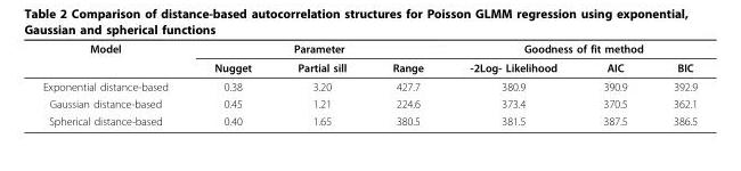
<table><thead><tr><td rowspan="2">Model</td><td colspan="3">Parameter</td><td colspan="3">Goodness of fit method</td></tr><tr><td>Nugget</td><td>Partial sill</td><td>Range</td><td>-2Log- Likelihood</td><td>AIC</td><td>BIC</td></tr></thead><tbody><tr><td>Exponential distance-based</td><td>0.38</td><td>3.20</td><td>427.7</td><td>380.9</td><td>390.9</td><td>392.9</td></tr><tr><td>Gaussian distance-based</td><td>0.45</td><td>1.21</td><td>224.6</td><td>373.4</td><td>370.5</td><td>362.1</td></tr><tr><td>Spherical distance-based</td><td>0.40</td><td>1.65</td><td>380.5</td><td>381.5</td><td>387.5</td><td>386.5</td></tr></tbody></table>